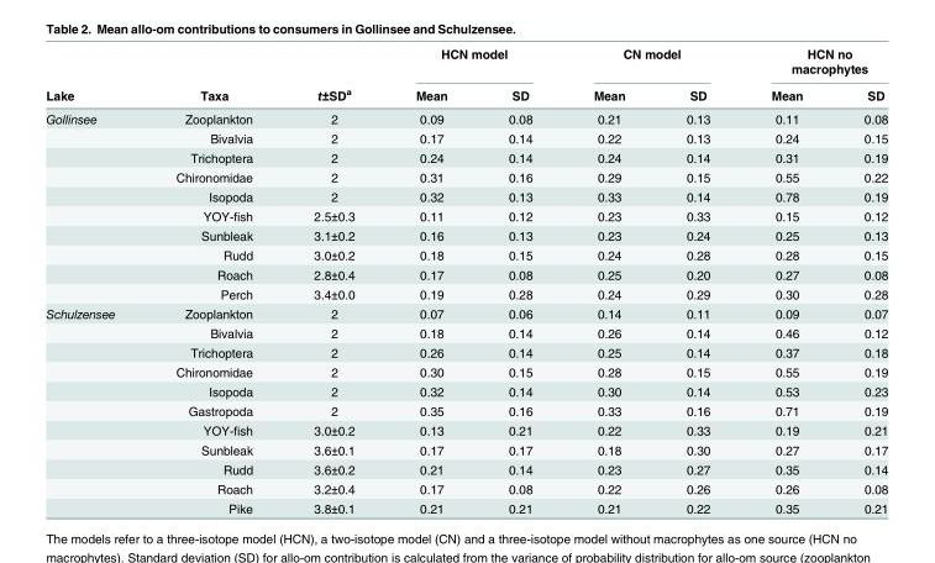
<table><thead><tr><td rowspan="2">Lake</td><td rowspan="2">Taxa</td><td rowspan="2">t±SD<sup>a</sup></td><td colspan="2">HCN model</td><td colspan="2">CN model</td><td colspan="2">HCN no macrophytes</td></tr><tr><td>Mean</td><td>SD</td><td>Mean</td><td>SD</td><td>Mean</td><td>SD</td></tr></thead><tbody><tr><td rowspan="10">Gollinsee</td><td>Zooplankton</td><td>2</td><td>0.09</td><td>0.08</td><td>0.21</td><td>0.13</td><td>0.11</td><td>0.08</td></tr><tr><td>Bivalvia</td><td>2</td><td>0.17</td><td>0.14</td><td>0.22</td><td>0.13</td><td>0.24</td><td>0.15</td></tr><tr><td>Trichoptera</td><td>2</td><td>0.24</td><td>0.14</td><td>0.24</td><td>0.14</td><td>0.31</td><td>0.19</td></tr><tr><td>Chironomidae</td><td>2</td><td>0.31</td><td>0.16</td><td>0.29</td><td>0.15</td><td>0.55</td><td>0.22</td></tr><tr><td>Isopoda</td><td>2</td><td>0.32</td><td>0.13</td><td>0.33</td><td>0.14</td><td>0.78</td><td>0.19</td></tr><tr><td>YOY-fish</td><td>2.5±0.3</td><td>0.11</td><td>0.12</td><td>0.23</td><td>0.33</td><td>0.15</td><td>0.12</td></tr><tr><td>Sunbleak</td><td>3.1±0.2</td><td>0.16</td><td>0.13</td><td>0.23</td><td>0.24</td><td>0.25</td><td>0.13</td></tr><tr><td>Rudd</td><td>3.0±0.2</td><td>0.18</td><td>0.15</td><td>0.24</td><td>0.28</td><td>0.28</td><td>0.15</td></tr><tr><td>Roach</td><td>2.8±0.4</td><td>0.17</td><td>0.08</td><td>0.25</td><td>0.20</td><td>0.27</td><td>0.08</td></tr><tr><td>Perch</td><td>3.4±0.0</td><td>0.19</td><td>0.28</td><td>0.24</td><td>0.29</td><td>0.30</td><td>0.28</td></tr><tr><td rowspan="11">Schulzensee</td><td>Zooplankton</td><td>2</td><td>0.07</td><td>0.06</td><td>0.14</td><td>0.11</td><td>0.09</td><td>0.07</td></tr><tr><td>Bivalvia</td><td>2</td><td>0.18</td><td>0.14</td><td>0.26</td><td>0.14</td><td>0.46</td><td>0.12</td></tr><tr><td>Trichoptera</td><td>2</td><td>0.26</td><td>0.14</td><td>0.25</td><td>0.14</td><td>0.37</td><td>0.18</td></tr><tr><td>Chironomidae</td><td>2</td><td>0.30</td><td>0.15</td><td>0.28</td><td>0.15</td><td>0.55</td><td>0.19</td></tr><tr><td>Isopoda</td><td>2</td><td>0.32</td><td>0.14</td><td>0.30</td><td>0.14</td><td>0.53</td><td>0.23</td></tr><tr><td>Gastropoda</td><td>2</td><td>0.35</td><td>0.16</td><td>0.33</td><td>0.16</td><td>0.71</td><td>0.19</td></tr><tr><td>YOY-fish</td><td>3.0±0.2</td><td>0.13</td><td>0.21</td><td>0.22</td><td>0.33</td><td>0.19</td><td>0.21</td></tr><tr><td>Sunbleak</td><td>3.6±0.1</td><td>0.17</td><td>0.17</td><td>0.18</td><td>0.30</td><td>0.27</td><td>0.17</td></tr><tr><td>Rudd</td><td>3.6±0.2</td><td>0.21</td><td>0.14</td><td>0.23</td><td>0.27</td><td>0.35</td><td>0.14</td></tr><tr><td>Roach</td><td>3.2±0.4</td><td>0.17</td><td>0.08</td><td>0.22</td><td>0.26</td><td>0.26</td><td>0.08</td></tr><tr><td>Pike</td><td>3.8±0.1</td><td>0.21</td><td>0.21</td><td>0.21</td><td>0.22</td><td>0.35</td><td>0.21</td></tr></tbody></table>